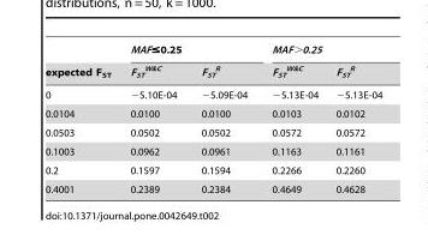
<table><thead><tr><td rowspan="2">expected F<sub>ST</sub></td><td colspan="2">MAF≤0.25</td><td colspan="2">MAF&gt;0.25</td></tr><tr><td>F<sub>ST</sub> <sup>W&amp;C</sup></td><td>F<sub>ST</sub> <sup>R</sup></td><td>F<sub>ST</sub> <sup>W&amp;C</sup></td><td>F<sub>ST</sub> <sup>R</sup></td></tr></thead><tbody><tr><td>0</td><td>−5.10E-04</td><td>−5.09E-04</td><td>−5.13E-04</td><td>−5.13E-04</td></tr><tr><td>0.0104</td><td>0.0100</td><td>0.0100</td><td>0.0103</td><td>0.0102</td></tr><tr><td>0.0503</td><td>0.0502</td><td>0.0502</td><td>0.0572</td><td>0.0572</td></tr><tr><td>0.1003</td><td>0.0962</td><td>0.0961</td><td>0.1163</td><td>0.1161</td></tr><tr><td>0.2</td><td>0.1597</td><td>0.1594</td><td>0.2266</td><td>0.2260</td></tr><tr><td>0.4001</td><td>0.2389</td><td>0.2384</td><td>0.4649</td><td>0.4628</td></tr></tbody></table>